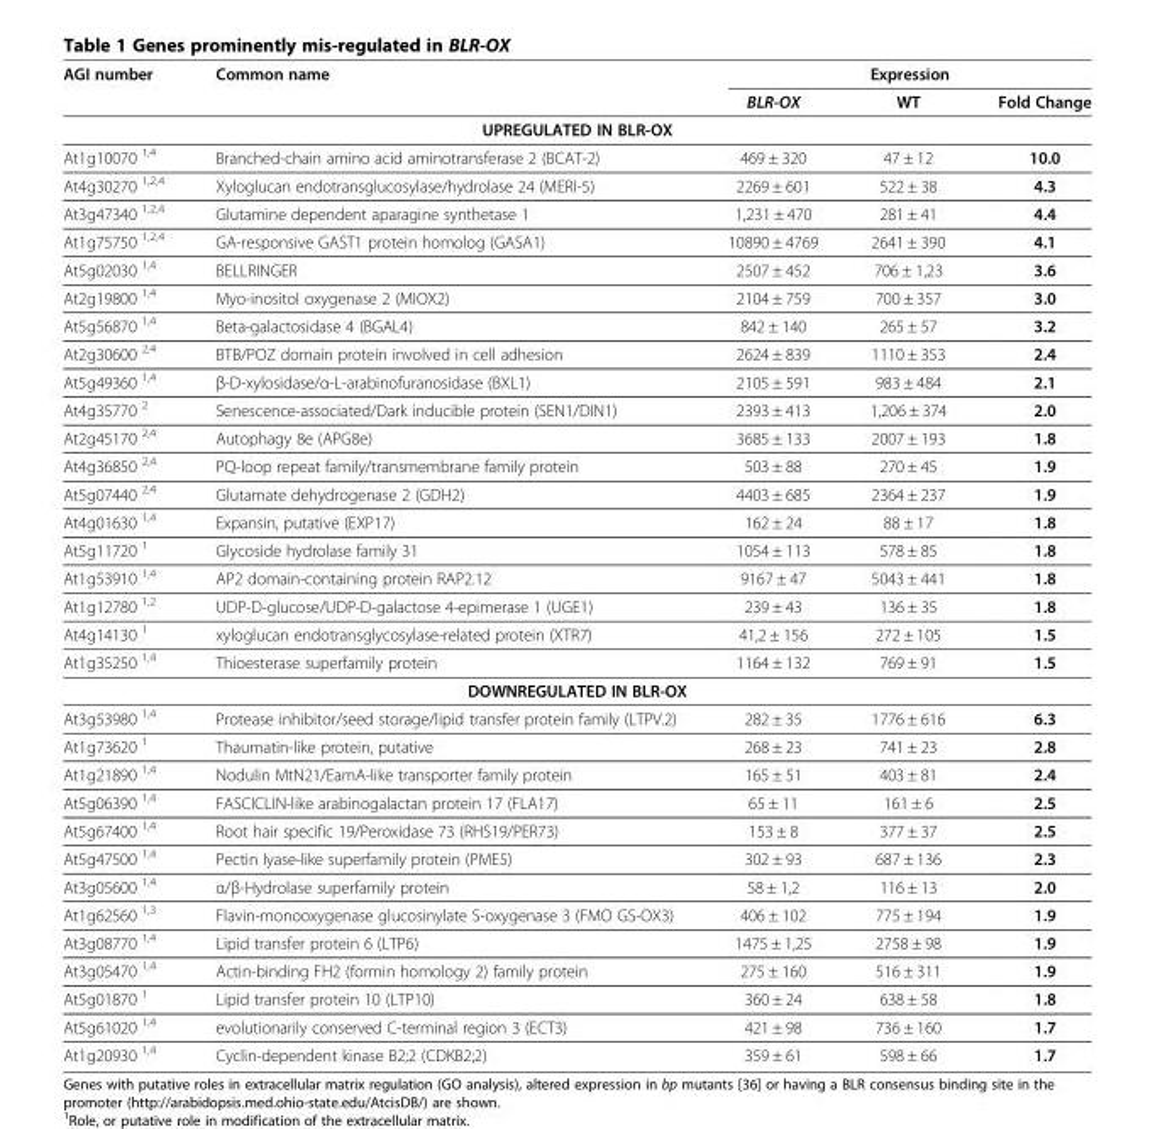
<table><thead><tr><td rowspan="2">AGI number</td><td rowspan="2">Common name</td><td colspan="3">Expression</td></tr><tr><td>BLR-OX</td><td>WT</td><td>Fold Change</td></tr></thead><tbody><tr><td colspan="5">UPREGULATED IN BLR-OX</td></tr><tr><td>At1g10070 <sup>1,4</sup></td><td>Branched-chain amino acid aminotransferase 2 (BCAT-2)</td><td>469 ± 320</td><td>47 ± 12</td><td>10.0</td></tr><tr><td>At4g30270 <sup>1,2,4</sup></td><td>Xyloglucan endotransglucosylase/hydrolase 24 (MERI-5)</td><td>2269 ± 601</td><td>522 ± 38</td><td>4.3</td></tr><tr><td>At3g47340 <sup>1,2,4</sup></td><td>Glutamine dependent aparagine synthetase 1</td><td>1,231 ± 470</td><td>281 ± 41</td><td>4.4</td></tr><tr><td>At1g75750 <sup>1,2,4</sup></td><td>GA-responsive GAST1 protein homolog (GASA1)</td><td>10890 ± 4769</td><td>2641 ± 390</td><td>4.1</td></tr><tr><td>At5g02030 <sup>1,4</sup></td><td>BELLRINGER</td><td>2507 ± 452</td><td>706 ± 1,23</td><td>3.6</td></tr><tr><td>At2g19800 <sup>1,4</sup></td><td>Myo-inositol oxygenase 2 (MIOX2)</td><td>2104 ± 759</td><td>700 ± 357</td><td>3.0</td></tr><tr><td>At5g56870 <sup>1,4</sup></td><td>Beta-galactosidase 4 (BGAL4)</td><td>842 ± 140</td><td>265 ± 57</td><td>3.2</td></tr><tr><td>At2g30600 <sup>2,4</sup></td><td>BTB/POZ domain protein involved in cell adhesion</td><td>2624 ± 839</td><td>1110 ± 353</td><td>2.4</td></tr><tr><td>At5g49360 <sup>1,4</sup></td><td>β-D-xylosidase/α-L-arabinofuranosidase (BXL1)</td><td>2105 ± 591</td><td>983 ± 484</td><td>2.1</td></tr><tr><td>At4g35770 <sup>2</sup></td><td>Senescence-associated/Dark inducible protein (SEN1/DIN1)</td><td>2393 ± 413</td><td>1,206 ± 374</td><td>2.0</td></tr><tr><td>At2g45170 <sup>2,4</sup></td><td>Autophagy 8e (APG8e)</td><td>3685 ± 133</td><td>2007 ± 193</td><td>1.8</td></tr><tr><td>At4g36850 <sup>2,4</sup></td><td>PQ-loop repeat family/transmembrane family protein</td><td>503 ± 88</td><td>270 ± 45</td><td>1.9</td></tr><tr><td>At5g07440 <sup>2,4</sup></td><td>Glutamate dehydrogenase 2 (GDH2)</td><td>4403 ± 685</td><td>2364 ± 237</td><td>1.9</td></tr><tr><td>At4g01630 <sup>1,4</sup></td><td>Expansin, putative (EXP17)</td><td>162 ± 24</td><td>88 ± 17</td><td>1.8</td></tr><tr><td>At5g11720 <sup>1</sup></td><td>Glycoside hydrolase family 31</td><td>1054 ± 113</td><td>578 ± 85</td><td>1.8</td></tr><tr><td>At1g53910 <sup>1,4</sup></td><td>AP2 domain-containing protein RAP2.12</td><td>9167 ± 47</td><td>5043 ± 441</td><td>1.8</td></tr><tr><td>At1g12780 <sup>1,2</sup></td><td>UDP-D-glucose/UDP-D-galactose 4-epimerase 1 (UGE1)</td><td>239 ± 43</td><td>136 ± 35</td><td>1.8</td></tr><tr><td>At4g14130 <sup>1</sup></td><td>xyloglucan endotransglycosylase-related protein (XTR7)</td><td>41,2 ± 156</td><td>272 ± 105</td><td>1.5</td></tr><tr><td>At1g35250 <sup>1,4</sup></td><td>Thioesterase superfamily protein</td><td>1164 ± 132</td><td>769 ± 91</td><td>1.5</td></tr><tr><td colspan="5">DOWNREGULATED IN BLR-OX</td></tr><tr><td>At3g53980 <sup>1,4</sup></td><td>Protease inhibitor/seed storage/lipid transfer protein family (LTPV.2)</td><td>282 ± 35</td><td>1776 ± 616</td><td>6.3</td></tr><tr><td>At1g73620 <sup>1</sup></td><td>Thaumatin-like protein, putative</td><td>268 ± 23</td><td>741 ± 23</td><td>2.8</td></tr><tr><td>At1g21890 <sup>1,4</sup></td><td>Nodulin MtN21/EamA-like transporter family protein</td><td>165 ± 51</td><td>403 ± 81</td><td>2.4</td></tr><tr><td>At5g06390 <sup>1,4</sup></td><td>FASCICLIN-like arabinogalactan protein 17 (FLA17)</td><td>65 ± 11</td><td>161 ± 6</td><td>2.5</td></tr><tr><td>At5g67400 <sup>1,4</sup></td><td>Root hair specific 19/Peroxidase 73 (RHS19/PER73)</td><td>153 ± 8</td><td>377 ± 37</td><td>2.5</td></tr><tr><td>At5g47500 <sup>1,4</sup></td><td>Pectin lyase-like superfamily protein (PME5)</td><td>302 ± 93</td><td>687 ± 136</td><td>2.3</td></tr><tr><td>At3g05600 <sup>1,4</sup></td><td>α/β-Hydrolase superfamily protein</td><td>58 ± 1,2</td><td>116 ± 13</td><td>2.0</td></tr><tr><td>At1g62560 <sup>1,3</sup></td><td>Flavin-monooxygenase glucosinylate S-oxygenase 3 (FMO GS-OX3)</td><td>406 ± 102</td><td>775 ± 194</td><td>1.9</td></tr><tr><td>At3g08770 <sup>1,4</sup></td><td>Lipid transfer protein 6 (LTP6)</td><td>1475 ± 1,25</td><td>2758 ± 98</td><td>1.9</td></tr><tr><td>At3g05470 <sup>1,4</sup></td><td>Actin-binding FH2 (formin homology 2) family protein</td><td>275 ± 160</td><td>516 ± 311</td><td>1.9</td></tr><tr><td>At5g01870 <sup>1</sup></td><td>Lipid transfer protein 10 (LTP10)</td><td>360 ± 24</td><td>638 ± 58</td><td>1.8</td></tr><tr><td>At5g61020 <sup>1,4</sup></td><td>evolutionarily conserved C-terminal region 3 (ECT3)</td><td>421 ± 98</td><td>736 ± 160</td><td>1.7</td></tr><tr><td>At1g20930 <sup>1,4</sup></td><td>Cyclin-dependent kinase B2;2 (CDKB2;2)</td><td>359 ± 61</td><td>598 ± 66</td><td>1.7</td></tr></tbody></table>